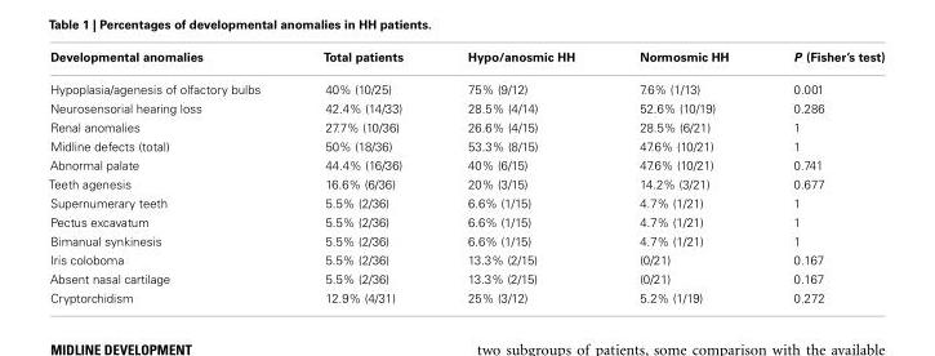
<table><thead><tr><td>Developmental anomalies</td><td>Total patients</td><td>Hypo/anosmic HH</td><td>Normosmic HH</td><td>P (Fisher’s test)</td></tr></thead><tbody><tr><td>Hypoplasia/agenesis of olfactory bulbs</td><td>40% (10/25)</td><td>75% (9/12)</td><td>7.6% (1/13)</td><td>0.001</td></tr><tr><td>Neurosensorial hearing loss</td><td>42.4% (14/33)</td><td>28.5% (4/14)</td><td>52.6% (10/19)</td><td>0.286</td></tr><tr><td>Renal anomalies</td><td>27.7% (10/36)</td><td>26.6% (4/15)</td><td>28.5% (6/21)</td><td>1</td></tr><tr><td>Midline defects (total)</td><td>50% (18/36)</td><td>53.3% (8/15)</td><td>47.6% (10/21)</td><td>1</td></tr><tr><td>Abnormal palate</td><td>44.4% (16/36)</td><td>40% (6/15)</td><td>47.6% (10/21)</td><td>0.741</td></tr><tr><td>Teeth agenesis</td><td>16.6% (6/36)</td><td>20% (3/15)</td><td>14.2% (3/21)</td><td>0.677</td></tr><tr><td>Supernumerary teeth</td><td>5.5% (2/36)</td><td>6.6% (1/15)</td><td>4.7% (1/21)</td><td>1</td></tr><tr><td>Pectus excavatum</td><td>5.5% (2/36)</td><td>6.6% (1/15)</td><td>4.7% (1/21)</td><td>1</td></tr><tr><td>Bimanual synkinesis</td><td>5.5% (2/36)</td><td>6.6% (1/15)</td><td>4.7% (1/21)</td><td>1</td></tr><tr><td>Iris coloboma</td><td>5.5% (2/36)</td><td>13.3% (2/15)</td><td>(0/21)</td><td>0.167</td></tr><tr><td>Absent nasal cartilage</td><td>5.5% (2/36)</td><td>13.3% (2/15)</td><td>(0/21)</td><td>0.167</td></tr><tr><td>Cryptorchidism</td><td>12.9% (4/31)</td><td>25% (3/12)</td><td>5.2% (1/19)</td><td>0.272</td></tr></tbody></table>